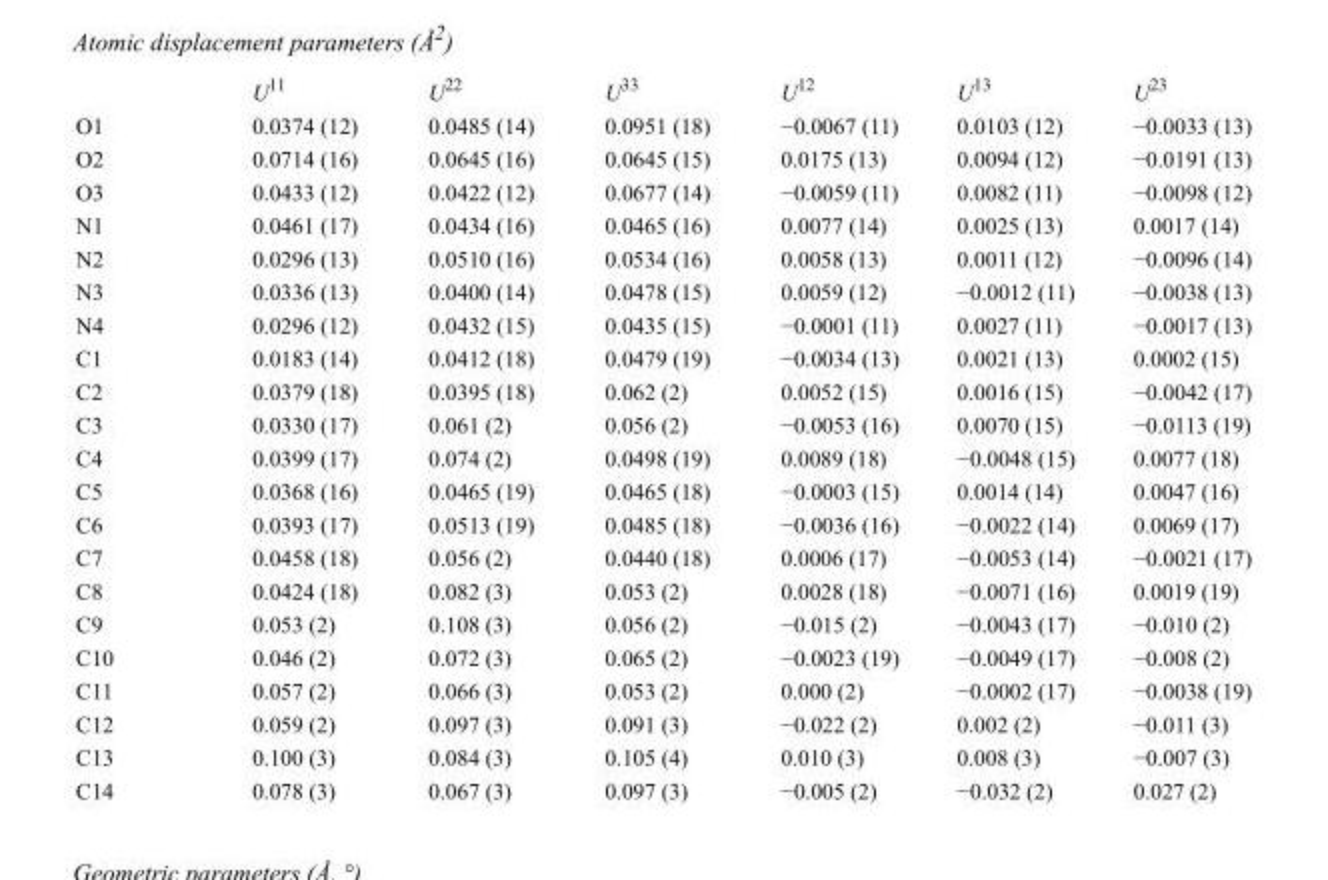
<table><thead><tr><td></td><td>U<sup>11</sup></td><td>U<sup>22</sup></td><td>U<sup>33</sup></td><td>U<sup>12</sup></td><td>U<sup>13</sup></td><td>U<sup>23</sup></td></tr></thead><tbody><tr><td>O1</td><td>0.0374 (12)</td><td>0.0485 (14)</td><td>0.0951 (18)</td><td>−0.0067 (11)</td><td>0.0103 (12)</td><td>−0.0033 (13)</td></tr><tr><td>O2</td><td>0.0714 (16)</td><td>0.0645 (16)</td><td>0.0645 (15)</td><td>0.0175 (13)</td><td>0.0094 (12)</td><td>−0.0191 (13)</td></tr><tr><td>O3</td><td>0.0433 (12)</td><td>0.0422 (12)</td><td>0.0677 (14)</td><td>−0.0059 (11)</td><td>0.0082 (11)</td><td>−0.0098 (12)</td></tr><tr><td>N1</td><td>0.0461 (17)</td><td>0.0434 (16)</td><td>0.0465 (16)</td><td>0.0077 (14)</td><td>0.0025 (13)</td><td>0.0017 (14)</td></tr><tr><td>N2</td><td>0.0296 (13)</td><td>0.0510 (16)</td><td>0.0534 (16)</td><td>0.0058 (13)</td><td>0.0011 (12)</td><td>−0.0096 (14)</td></tr><tr><td>N3</td><td>0.0336 (13)</td><td>0.0400 (14)</td><td>0.0478 (15)</td><td>0.0059 (12)</td><td>−0.0012 (11)</td><td>−0.0038 (13)</td></tr><tr><td>N4</td><td>0.0296 (12)</td><td>0.0432 (15)</td><td>0.0435 (15)</td><td>−0.0001 (11)</td><td>0.0027 (11)</td><td>−0.0017 (13)</td></tr><tr><td>C1</td><td>0.0183 (14)</td><td>0.0412 (18)</td><td>0.0479 (19)</td><td>−0.0034 (13)</td><td>0.0021 (13)</td><td>0.0002 (15)</td></tr><tr><td>C2</td><td>0.0379 (18)</td><td>0.0395 (18)</td><td>0.062 (2)</td><td>0.0052 (15)</td><td>0.0016 (15)</td><td>−0.0042 (17)</td></tr><tr><td>C3</td><td>0.0330 (17)</td><td>0.061 (2)</td><td>0.056 (2)</td><td>−0.0053 (16)</td><td>0.0070 (15)</td><td>−0.0113 (19)</td></tr><tr><td>C4</td><td>0.0399 (17)</td><td>0.074 (2)</td><td>0.0498 (19)</td><td>0.0089 (18)</td><td>−0.0048 (15)</td><td>0.0077 (18)</td></tr><tr><td>C5</td><td>0.0368 (16)</td><td>0.0465 (19)</td><td>0.0465 (18)</td><td>−0.0003 (15)</td><td>0.0014 (14)</td><td>0.0047 (16)</td></tr><tr><td>C6</td><td>0.0393 (17)</td><td>0.0513 (19)</td><td>0.0485 (18)</td><td>−0.0036 (16)</td><td>−0.0022 (14)</td><td>0.0069 (17)</td></tr><tr><td>C7</td><td>0.0458 (18)</td><td>0.056 (2)</td><td>0.0440 (18)</td><td>0.0006 (17)</td><td>−0.0053 (14)</td><td>−0.0021 (17)</td></tr><tr><td>C8</td><td>0.0424 (18)</td><td>0.082 (3)</td><td>0.053 (2)</td><td>0.0028 (18)</td><td>−0.0071 (16)</td><td>0.0019 (19)</td></tr><tr><td>C9</td><td>0.053 (2)</td><td>0.108 (3)</td><td>0.056 (2)</td><td>−0.015 (2)</td><td>−0.0043 (17)</td><td>−0.010 (2)</td></tr><tr><td>C10</td><td>0.046 (2)</td><td>0.072 (3)</td><td>0.065 (2)</td><td>−0.0023 (19)</td><td>−0.0049 (17)</td><td>−0.008 (2)</td></tr><tr><td>C11</td><td>0.057 (2)</td><td>0.066 (3)</td><td>0.053 (2)</td><td>0.000 (2)</td><td>−0.0002 (17)</td><td>−0.0038 (19)</td></tr><tr><td>C12</td><td>0.059 (2)</td><td>0.097 (3)</td><td>0.091 (3)</td><td>−0.022 (2)</td><td>0.002 (2)</td><td>−0.011 (3)</td></tr><tr><td>C13</td><td>0.100 (3)</td><td>0.084 (3)</td><td>0.105 (4)</td><td>0.010 (3)</td><td>0.008 (3)</td><td>−0.007 (3)</td></tr><tr><td>C14</td><td>0.078 (3)</td><td>0.067 (3)</td><td>0.097 (3)</td><td>−0.005 (2)</td><td>−0.032 (2)</td><td>0.027 (2)</td></tr></tbody></table>